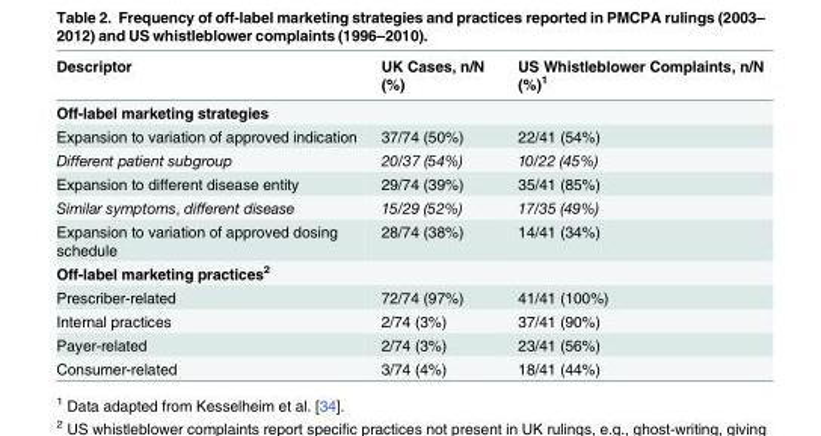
<table><thead><tr><td>Descriptor</td><td>UK Cases, n/N (%)</td><td>US Whistleblower Complaints, n/N (%)<sup>1</sup></td></tr></thead><tbody><tr><td colspan="3">Off-label marketing strategies</td></tr><tr><td>Expansion to variation of approved indication</td><td>37/74 (50%)</td><td>22/41 (54%)</td></tr><tr><td>Different patient subgroup</td><td>20/37 (54%)</td><td>10/22 (45%)</td></tr><tr><td>Expansion to different disease entity</td><td>29/74 (39%)</td><td>35/41 (85%)</td></tr><tr><td>Similar symptoms, different disease</td><td>15/29 (52%)</td><td>17/35 (49%)</td></tr><tr><td>Expansion to variation of approved dosing schedule</td><td>28/74 (38%)</td><td>14/41 (34%)</td></tr><tr><td colspan="3">Off-label marketing practices<sup>2</sup></td></tr><tr><td>Prescriber-related</td><td>72/74 (97%)</td><td>41/41 (100%)</td></tr><tr><td>Internal practices</td><td>2/74 (3%)</td><td>37/41 (90%)</td></tr><tr><td>Payer-related</td><td>2/74 (3%)</td><td>23/41 (56%)</td></tr><tr><td>Consumer-related</td><td>3/74 (4%)</td><td>18/41 (44%)</td></tr></tbody></table>